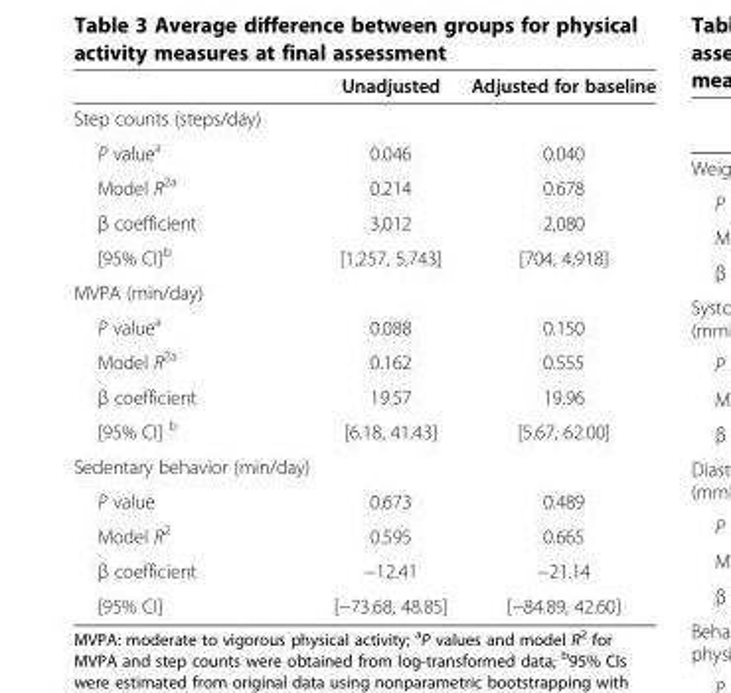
<table><thead><tr><td></td><td>Unadjusted</td><td>Adjusted for baseline</td></tr></thead><tbody><tr><td colspan="3">Step counts (steps/day)</td></tr><tr><td>P valuea</td><td>0.046</td><td>0.040</td></tr><tr><td>Model R2a</td><td>0.214</td><td>0.678</td></tr><tr><td>β coefficient</td><td>3,012</td><td>2,080</td></tr><tr><td>[95% CI]b</td><td>[1,257, 5,743]</td><td>[704, 4,918]</td></tr><tr><td colspan="3">MVPA (min/day)</td></tr><tr><td>P valuea</td><td>0.088</td><td>0.150</td></tr><tr><td>Model R2a</td><td>0.162</td><td>0.555</td></tr><tr><td>β coefficient</td><td>19.57</td><td>19.96</td></tr><tr><td>[95% CI] b</td><td>[6.18, 41.43]</td><td>[5.67, 62.00]</td></tr><tr><td colspan="3">Sedentary behavior (min/day)</td></tr><tr><td>P value</td><td>0.673</td><td>0.489</td></tr><tr><td>Model R2</td><td>0.595</td><td>0.665</td></tr><tr><td>β coefficient</td><td>−12.41</td><td>−21.14</td></tr><tr><td>[95% CI]</td><td>[−73.68, 48.85]</td><td>[−84.89, 42.60]</td></tr></tbody></table>